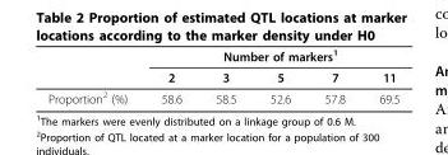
<table><thead><tr><td rowspan="2"></td><td colspan="5">Number of markers<sup>1</sup></td></tr><tr><td>2</td><td>3</td><td>5</td><td>7</td><td>11</td></tr></thead><tbody><tr><td>Proportion<sup>2</sup> (%)</td><td>58.6</td><td>58.5</td><td>52.6</td><td>57.8</td><td>69.5</td></tr></tbody></table>